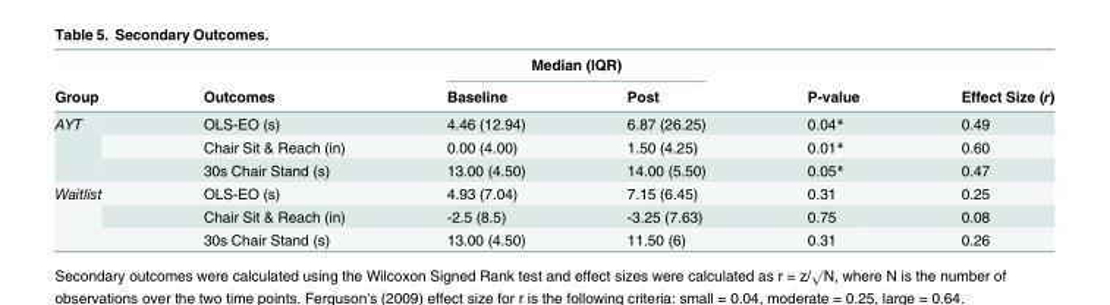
<table><thead><tr><td rowspan="2">Group</td><td rowspan="2">Outcomes</td><td colspan="2">Median (IQR)</td><td rowspan="2">P-value</td><td rowspan="2">Effect Size (r)</td></tr><tr><td>Baseline</td><td>Post</td></tr></thead><tbody><tr><td rowspan="3">AYT</td><td>OLS-EO (s)</td><td>4.46 (12.94)</td><td>6.87 (26.25)</td><td>0.04*</td><td>0.49</td></tr><tr><td>Chair Sit &amp; Reach (in)</td><td>0.00 (4.00)</td><td>1.50 (4.25)</td><td>0.01*</td><td>0.60</td></tr><tr><td>30s Chair Stand (s)</td><td>13.00 (4.50)</td><td>14.00 (5.50)</td><td>0.05*</td><td>0.47</td></tr><tr><td rowspan="3">Waitlist</td><td>OLS-EO (s)</td><td>4.93 (7.04)</td><td>7.15 (6.45)</td><td>0.31</td><td>0.25</td></tr><tr><td>Chair Sit &amp; Reach (in)</td><td>-2.5 (8.5)</td><td>-3.25 (7.63)</td><td>0.75</td><td>0.08</td></tr><tr><td>30s Chair Stand (s)</td><td>13.00 (4.50)</td><td>11.50 (6)</td><td>0.31</td><td>0.26</td></tr></tbody></table>